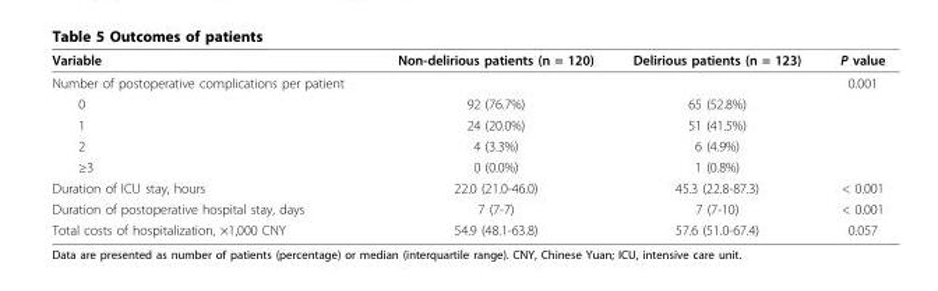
<table><thead><tr><td>Variable</td><td>Non-delirious patients (n = 120)</td><td>Delirious patients (n = 123)</td><td>P value</td></tr></thead><tbody><tr><td>Number of postoperative complications per patient</td><td></td><td></td><td>0.001</td></tr><tr><td>0</td><td>92 (76.7%)</td><td>65 (52.8%)</td><td></td></tr><tr><td>1</td><td>24 (20.0%)</td><td>51 (41.5%)</td><td></td></tr><tr><td>2</td><td>4 (3.3%)</td><td>6 (4.9%)</td><td></td></tr><tr><td>≥3</td><td>0 (0.0%)</td><td>1 (0.8%)</td><td></td></tr><tr><td>Duration of ICU stay, hours</td><td>22.0 (21.0-46.0)</td><td>45.3 (22.8-87.3)</td><td>&lt; 0.001</td></tr><tr><td>Duration of postoperative hospital stay, days</td><td>7 (7-7)</td><td>7 (7-10)</td><td>&lt; 0.001</td></tr><tr><td>Total costs of hospitalization, ×1,000 CNY</td><td>54.9 (48.1-63.8)</td><td>57.6 (51.0-67.4)</td><td>0.057</td></tr></tbody></table>